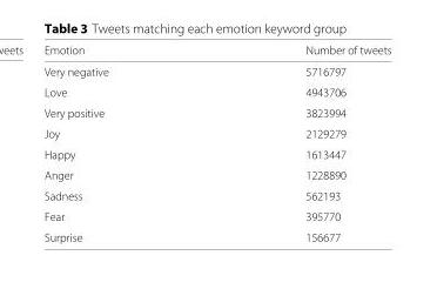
<table><thead><tr><td>Emotion</td><td>Number of tweets</td></tr></thead><tbody><tr><td>Very negative</td><td>5716797</td></tr><tr><td>Love</td><td>4943706</td></tr><tr><td>Very positive</td><td>3823994</td></tr><tr><td>Joy</td><td>2129279</td></tr><tr><td>Happy</td><td>1613447</td></tr><tr><td>Anger</td><td>1228890</td></tr><tr><td>Sadness</td><td>562193</td></tr><tr><td>Fear</td><td>395770</td></tr><tr><td>Surprise</td><td>156677</td></tr></tbody></table>